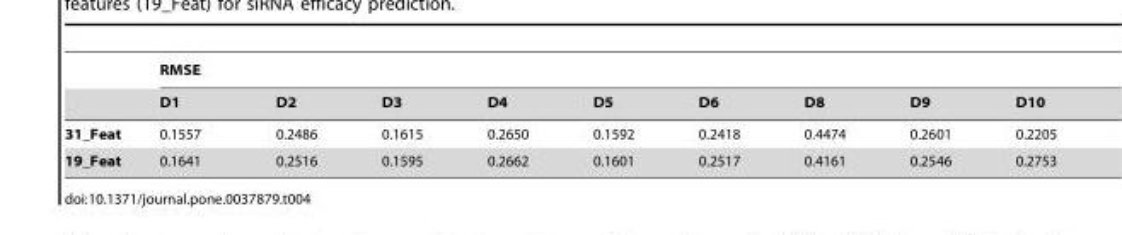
<table><thead><tr><td rowspan="2"></td><td colspan="9">RMSE</td></tr><tr><td>D1</td><td>D2</td><td>D3</td><td>D4</td><td>D5</td><td>D6</td><td>D8</td><td>D9</td><td>D10</td></tr></thead><tbody><tr><td>31_Feat</td><td>0.1557</td><td>0.2486</td><td>0.1615</td><td>0.2650</td><td>0.1592</td><td>0.2418</td><td>0.4474</td><td>0.2601</td><td>0.2205</td></tr><tr><td>19_Feat</td><td>0.1641</td><td>0.2516</td><td>0.1595</td><td>0.2662</td><td>0.1601</td><td>0.2517</td><td>0.4161</td><td>0.2546</td><td>0.2753</td></tr></tbody></table>